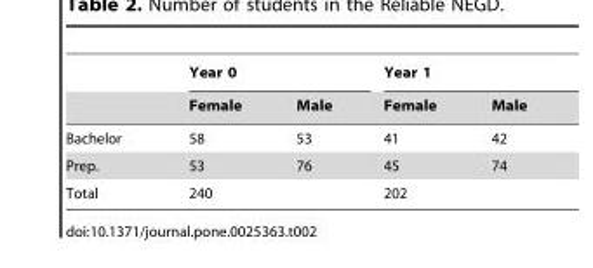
<table><thead><tr><td rowspan="2"></td><td colspan="2">Year 0</td><td colspan="2">Year 1</td></tr><tr><td>Female</td><td>Male</td><td>Female</td><td>Male</td></tr></thead><tbody><tr><td>Bachelor</td><td>58</td><td>53</td><td>41</td><td>42</td></tr><tr><td>Prep.</td><td>53</td><td>76</td><td>45</td><td>74</td></tr><tr><td>Total</td><td colspan="2">240</td><td colspan="2">202</td></tr></tbody></table>